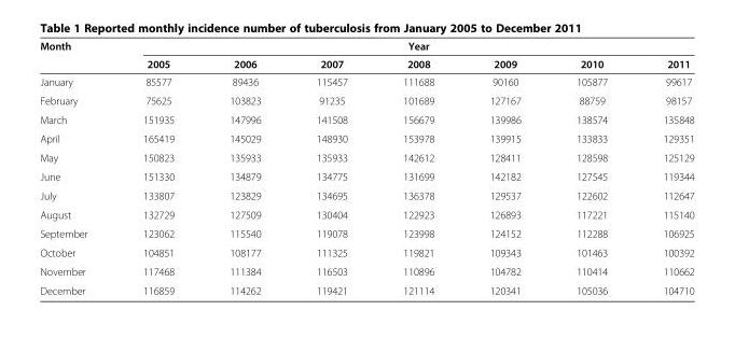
<table><thead><tr><td rowspan="2">Month</td><td colspan="7">Year</td></tr><tr><td>2005</td><td>2006</td><td>2007</td><td>2008</td><td>2009</td><td>2010</td><td>2011</td></tr></thead><tbody><tr><td>January</td><td>85577</td><td>89436</td><td>115457</td><td>111688</td><td>90160</td><td>105877</td><td>99617</td></tr><tr><td>February</td><td>75625</td><td>103823</td><td>91235</td><td>101689</td><td>127167</td><td>88759</td><td>98157</td></tr><tr><td>March</td><td>151935</td><td>147996</td><td>141508</td><td>156679</td><td>139986</td><td>138574</td><td>135848</td></tr><tr><td>April</td><td>165419</td><td>145029</td><td>148930</td><td>153978</td><td>139915</td><td>133833</td><td>129351</td></tr><tr><td>May</td><td>150823</td><td>135933</td><td>135933</td><td>142612</td><td>128411</td><td>128598</td><td>125129</td></tr><tr><td>June</td><td>151330</td><td>134879</td><td>134775</td><td>131699</td><td>142182</td><td>127545</td><td>119344</td></tr><tr><td>July</td><td>133807</td><td>123829</td><td>134695</td><td>136378</td><td>129537</td><td>122602</td><td>112647</td></tr><tr><td>August</td><td>132729</td><td>127509</td><td>130404</td><td>122923</td><td>126893</td><td>117221</td><td>115140</td></tr><tr><td>September</td><td>123062</td><td>115540</td><td>119078</td><td>123998</td><td>124152</td><td>112288</td><td>106925</td></tr><tr><td>October</td><td>104851</td><td>108177</td><td>111325</td><td>119821</td><td>109343</td><td>101463</td><td>100392</td></tr><tr><td>November</td><td>117468</td><td>111384</td><td>116503</td><td>110896</td><td>104782</td><td>110414</td><td>110662</td></tr><tr><td>December</td><td>116859</td><td>114262</td><td>119421</td><td>121114</td><td>120341</td><td>105036</td><td>104710</td></tr></tbody></table>